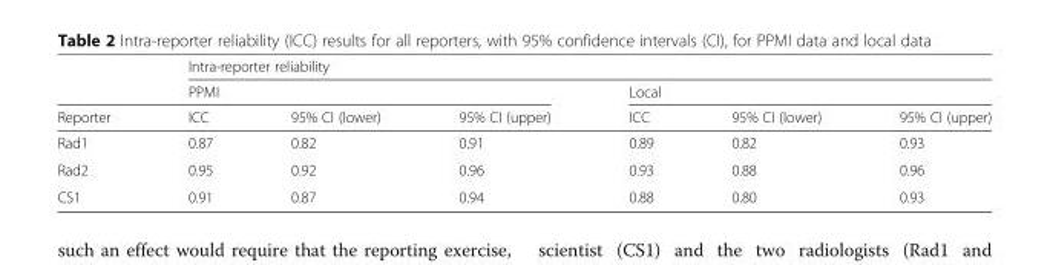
<table><thead><tr><td rowspan="3">Reporter</td><td colspan="6">Intra-reporter reliability</td></tr><tr><td colspan="3">PPMI</td><td colspan="3">Local</td></tr><tr><td>ICC</td><td>95% CI (lower)</td><td>95% CI (upper)</td><td>ICC</td><td>95% CI (lower)</td><td>95% CI (upper)</td></tr></thead><tbody><tr><td>Rad1</td><td>0.87</td><td>0.82</td><td>0.91</td><td>0.89</td><td>0.82</td><td>0.93</td></tr><tr><td>Rad2</td><td>0.95</td><td>0.92</td><td>0.96</td><td>0.93</td><td>0.88</td><td>0.96</td></tr><tr><td>CS1</td><td>0.91</td><td>0.87</td><td>0.94</td><td>0.88</td><td>0.80</td><td>0.93</td></tr></tbody></table>